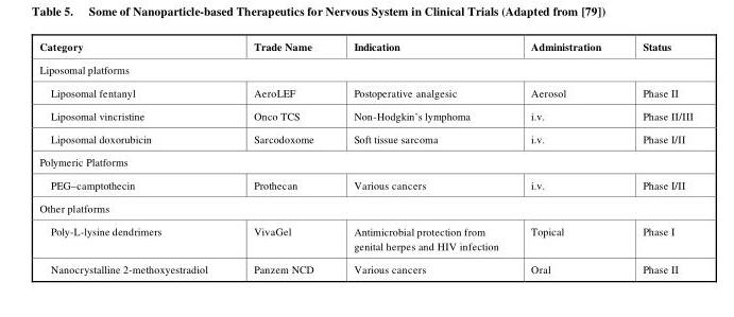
<table><thead><tr><td>Category</td><td>Trade Name</td><td>Indication</td><td>Administration</td><td>Status</td></tr></thead><tbody><tr><td colspan="5">Liposomal platforms</td></tr><tr><td>Liposomal fentanyl</td><td>AeroLEF</td><td>Postoperative analgesic</td><td>Aerosol</td><td>Phase II</td></tr><tr><td>Liposomal vincristine</td><td>Onco TCS</td><td>Non-Hodgkin’s lymphoma</td><td>i.v.</td><td>Phase II/III</td></tr><tr><td>Liposomal doxorubicin</td><td>Sarcodoxome</td><td>Soft tissue sarcoma</td><td>i.v.</td><td>Phase I/II</td></tr><tr><td colspan="5">Polymeric Platforms</td></tr><tr><td>PEG–camptothecin</td><td>Prothecan</td><td>Various cancers</td><td>i.v.</td><td>Phase I/II</td></tr><tr><td colspan="5">Other platforms</td></tr><tr><td>Poly-L-lysine dendrimers</td><td>VivaGel</td><td>Antimicrobial protection from genital herpes and HIV infection</td><td>Topical</td><td>Phase I</td></tr><tr><td>Nanocrystalline 2-methoxyestradiol</td><td>Panzem NCD</td><td>Various cancers</td><td>Oral</td><td>Phase II</td></tr></tbody></table>